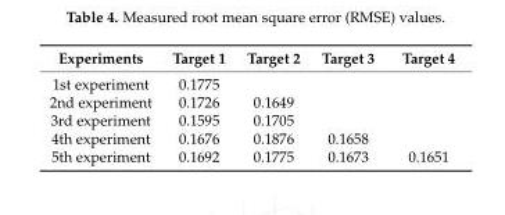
<table><thead><tr><td>Experiments</td><td>Target 1</td><td>Target 2</td><td>Target 3</td><td>Target 4</td></tr></thead><tbody><tr><td>1st experiment</td><td>0.1775</td><td></td><td></td><td></td></tr><tr><td>2nd experiment</td><td>0.1726</td><td>0.1649</td><td></td><td></td></tr><tr><td>3rd experiment</td><td>0.1595</td><td>0.1705</td><td></td><td></td></tr><tr><td>4th experiment</td><td>0.1676</td><td>0.1876</td><td>0.1658</td><td></td></tr><tr><td>5th experiment</td><td>0.1692</td><td>0.1775</td><td>0.1673</td><td>0.1651</td></tr></tbody></table>